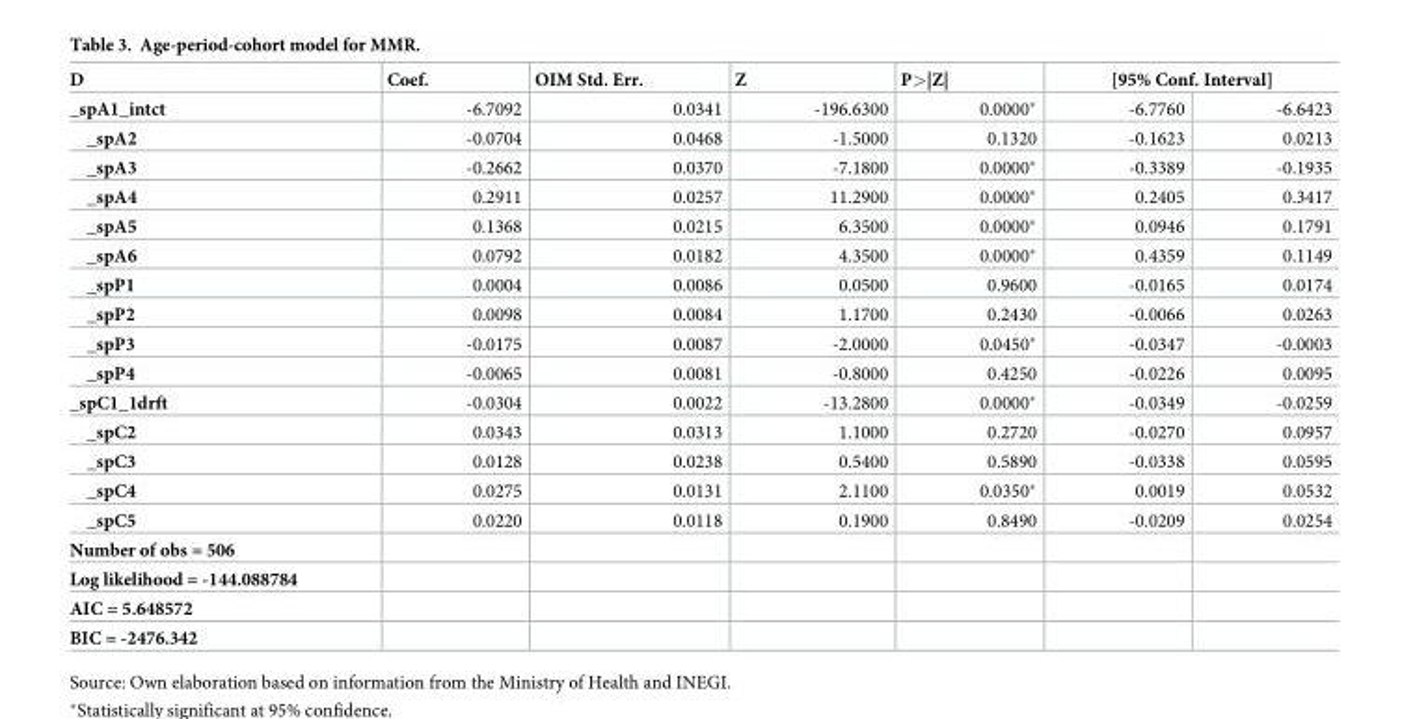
<table><thead><tr><td rowspan="2">D _spA1_intct</td><td rowspan="2">Coef. -6.7092</td><td rowspan="2">OIM Std. Err. 0.0341</td><td rowspan="2">Z -196.6300</td><td rowspan="2">P&gt;|Z| 0.0000*</td><td colspan="2">[95% Conf. Interval]</td></tr><tr><td>-6.7760</td><td>-6.6423</td></tr></thead><tbody><tr><td>_spA2</td><td>-0.0704</td><td>0.0468</td><td>-1.5000</td><td>0.1320</td><td>-0.1623</td><td>0.0213</td></tr><tr><td>_spA3</td><td>-0.2662</td><td>0.0370</td><td>-7.1800</td><td>0.0000*</td><td>-0.3389</td><td>-0.1935</td></tr><tr><td>_spA4</td><td>0.2911</td><td>0.0257</td><td>11.2900</td><td>0.0000*</td><td>0.2405</td><td>0.3417</td></tr><tr><td>_spA5</td><td>0.1368</td><td>0.0215</td><td>6.3500</td><td>0.0000*</td><td>0.0946</td><td>0.1791</td></tr><tr><td>_spA6</td><td>0.0792</td><td>0.0182</td><td>4.3500</td><td>0.0000*</td><td>0.4359</td><td>0.1149</td></tr><tr><td>_spP1</td><td>0.0004</td><td>0.0086</td><td>0.0500</td><td>0.9600</td><td>-0.0165</td><td>0.0174</td></tr><tr><td>_spP2</td><td>0.0098</td><td>0.0084</td><td>1.1700</td><td>0.2430</td><td>-0.0066</td><td>0.0263</td></tr><tr><td>_spP3</td><td>-0.0175</td><td>0.0087</td><td>-2.0000</td><td>0.0450*</td><td>-0.0347</td><td>-0.0003</td></tr><tr><td>_spP4</td><td>-0.0065</td><td>0.0081</td><td>-0.8000</td><td>0.4250</td><td>-0.0226</td><td>0.0095</td></tr><tr><td>_spC1_1drft</td><td>-0.0304</td><td>0.0022</td><td>-13.2800</td><td>0.0000*</td><td>-0.0349</td><td>-0.0259</td></tr><tr><td>_spC2</td><td>0.0343</td><td>0.0313</td><td>1.1000</td><td>0.2720</td><td>-0.0270</td><td>0.0957</td></tr><tr><td>_spC3</td><td>0.0128</td><td>0.0238</td><td>0.5400</td><td>0.5890</td><td>-0.0338</td><td>0.0595</td></tr><tr><td>_spC4</td><td>0.0275</td><td>0.0131</td><td>2.1100</td><td>0.0350*</td><td>0.0019</td><td>0.0532</td></tr><tr><td>_spC5</td><td>0.0220</td><td>0.0118</td><td>0.1900</td><td>0.8490</td><td>-0.0209</td><td>0.0254</td></tr><tr><td colspan="7">Number of obs = 506</td></tr><tr><td colspan="7">Log likelihood = -144.088784</td></tr><tr><td colspan="7">AIC = 5.648572</td></tr><tr><td>BIC = -2476.342</td><td></td><td></td><td></td><td></td><td></td><td></td></tr></tbody></table>